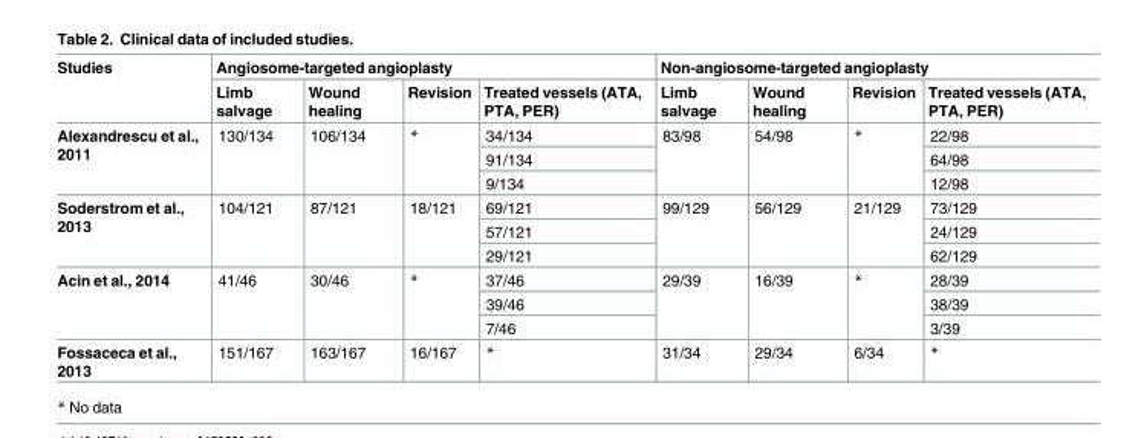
<table><thead><tr><td rowspan="2">Studies</td><td colspan="4">Angiosome-targeted angioplasty</td><td colspan="4">Non-angiosome-targeted angioplasty</td></tr><tr><td>Limb salvage</td><td>Wound healing</td><td>Revision</td><td>Treated vessels (ATA, PTA, PER)</td><td>Limb salvage</td><td>Wound healing</td><td>Revision</td><td>Treated vessels (ATA, PTA, PER)</td></tr></thead><tbody><tr><td rowspan="3">Alexandrescu et al., 2011</td><td rowspan="3">130/134</td><td rowspan="3">106/134</td><td rowspan="3">*</td><td>34/134</td><td rowspan="3">83/98</td><td rowspan="3">54/98</td><td rowspan="3">*</td><td>22/98</td></tr><tr><td>91/134</td><td>64/98</td></tr><tr><td>9/134</td><td>12/98</td></tr><tr><td rowspan="3">Soderstrom et al., 2013</td><td rowspan="3">104/121</td><td rowspan="3">87/121</td><td rowspan="3">18/121</td><td>69/121</td><td rowspan="3">99/129</td><td rowspan="3">56/129</td><td rowspan="3">21/129</td><td>73/129</td></tr><tr><td>57/121</td><td>24/129</td></tr><tr><td>29/121</td><td>62/129</td></tr><tr><td rowspan="3">Acin et al., 2014</td><td rowspan="3">41/46</td><td rowspan="3">30/46</td><td rowspan="3">*</td><td>37/46</td><td rowspan="3">29/39</td><td rowspan="3">16/39</td><td rowspan="3">*</td><td>28/39</td></tr><tr><td>39/46</td><td>38/39</td></tr><tr><td>7/46</td><td>3/39</td></tr><tr><td>Fossaceca et al., 2013</td><td>151/167</td><td>163/167</td><td>16/167</td><td>*</td><td>31/34</td><td>29/34</td><td>6/34</td><td>*</td></tr></tbody></table>